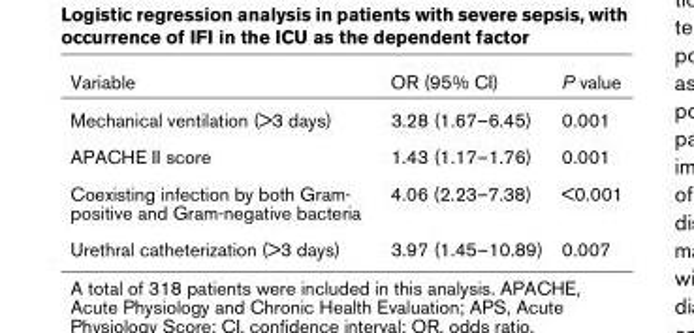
<table><thead><tr><td>Variable</td><td>OR (95% CI)</td><td>P value</td></tr></thead><tbody><tr><td>Mechanical ventilation (&gt;3 days)</td><td>3.28 (1.67–6.45)</td><td>0.001</td></tr><tr><td>APACHE II score</td><td>1.43 (1.17–1.76)</td><td>0.001</td></tr><tr><td>Coexisting infection by both Gram- positive and Gram-negative bacteria</td><td>4.06 (2.23–7.38)</td><td>&lt;0.001</td></tr><tr><td>Urethral catheterization (&gt;3 days)</td><td>3.97 (1.45–10.89)</td><td>0.007</td></tr></tbody></table>